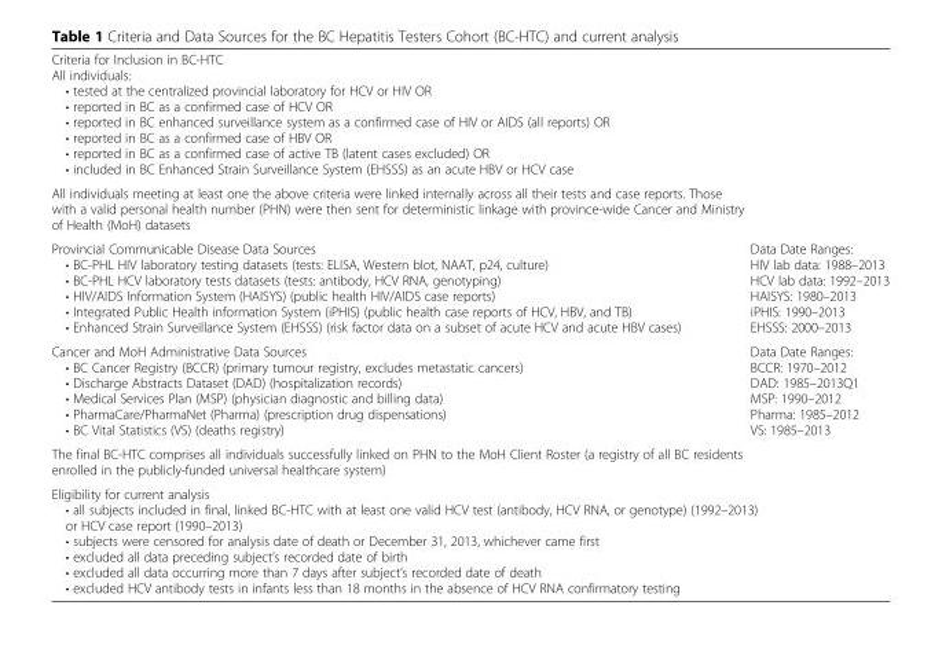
<table><tbody><tr><td colspan="2">Criteria for Inclusion in BC-HTC All individuals: • tested at the centralized provincial laboratory for HCV or HIV OR • reported in BC as a confirmed case of HCV OR • reported in BC enhanced surveillance system as a confirmed case of HIV or AIDS (all reports) OR • reported in BC as a confirmed case of HBV OR • reported in BC as a confirmed case of active TB (latent cases excluded) OR • included in BC Enhanced Strain Surveillance System (EHSSS) as an acute HBV or HCV case</td></tr><tr><td colspan="2">All individuals meeting at least one the above criteria were linked internally across all their tests and case reports. Those with a valid personal health number (PHN) were then sent for deterministic linkage with province-wide Cancer and Ministry of Health (MoH) datasets</td></tr><tr><td>Provincial Communicable Disease Data Sources • BC-PHL HIV laboratory testing datasets (tests: ELISA, Western blot, NAAT, p24, culture) • BC-PHL HCV laboratory tests datasets (tests: antibody, HCV RNA, genotyping) • HIV/AIDS Information System (HAISYS) (public health HIV/AIDS case reports) • Integrated Public Health information System (iPHIS) (public health case reports of HCV, HBV, and TB) • Enhanced Strain Surveillance System (EHSSS) (risk factor data on a subset of acute HCV and acute HBV cases)</td><td>Data Date Ranges: HIV lab data: 1988–2013 HCV lab data: 1992–2013 HAISYS: 1980–2013 iPHIS: 1990–2013 EHSSS: 2000–2013</td></tr><tr><td>Cancer and MoH Administrative Data Sources • BC Cancer Registry (BCCR) (primary tumour registry, excludes metastatic cancers) • Discharge Abstracts Dataset (DAD) (hospitalization records) • Medical Services Plan (MSP) (physician diagnostic and billing data) • PharmaCare/PharmaNet (Pharma) (prescription drug dispensations) • BC Vital Statistics (VS) (deaths registry)</td><td>Data Date Ranges: BCCR: 1970–2012 DAD: 1985–2013Q1 MSP: 1990–2012 Pharma: 1985–2012 VS: 1985–2013</td></tr><tr><td colspan="2">The final BC-HTC comprises all individuals successfully linked on PHN to the MoH Client Roster (a registry of all BC residents enrolled in the publicly-funded universal healthcare system)</td></tr><tr><td colspan="2">Eligibility for current analysis • all subjects included in final, linked BC-HTC with at least one valid HCV test (antibody, HCV RNA, or genotype) (1992–2013) or HCV case report (1990–2013) • subjects were censored for analysis date of death or December 31, 2013, whichever came first • excluded all data preceding subject’s recorded date of birth • excluded all data occurring more than 7 days after subject’s recorded date of death • excluded HCV antibody tests in infants less than 18 months in the absence of HCV RNA confirmatory testing</td></tr></tbody></table>